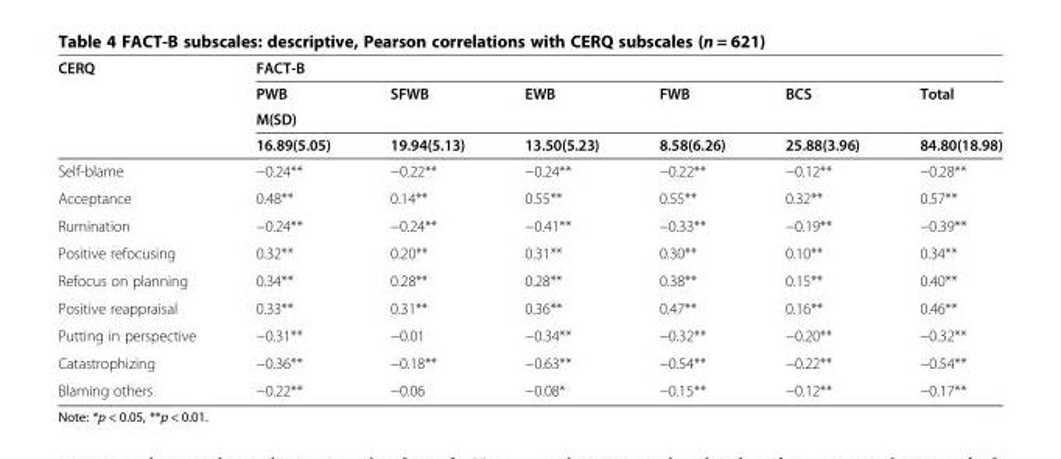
<table><thead><tr><td rowspan="4">CERQ</td><td colspan="6">FACT-B</td></tr><tr><td>PWB</td><td>SFWB</td><td>EWB</td><td>FWB</td><td>BCS</td><td>Total</td></tr><tr><td colspan="6">M(SD)</td></tr><tr><td>16.89(5.05)</td><td>19.94(5.13)</td><td>13.50(5.23)</td><td>8.58(6.26)</td><td>25.88(3.96)</td><td>84.80(18.98)</td></tr></thead><tbody><tr><td>Self-blame</td><td>−0.24**</td><td>−0.22**</td><td>−0.24**</td><td>−0.22**</td><td>−0.12**</td><td>−0.28**</td></tr><tr><td>Acceptance</td><td>0.48**</td><td>0.14**</td><td>0.55**</td><td>0.55**</td><td>0.32**</td><td>0.57**</td></tr><tr><td>Rumination</td><td>−0.24**</td><td>−0.24**</td><td>−0.41**</td><td>−0.33**</td><td>−0.19**</td><td>−0.39**</td></tr><tr><td>Positive refocusing</td><td>0.32**</td><td>0.20**</td><td>0.31**</td><td>0.30**</td><td>0.10**</td><td>0.34**</td></tr><tr><td>Refocus on planning</td><td>0.34**</td><td>0.28**</td><td>0.28**</td><td>0.38**</td><td>0.15**</td><td>0.40**</td></tr><tr><td>Positive reappraisal</td><td>0.33**</td><td>0.31**</td><td>0.36**</td><td>0.47**</td><td>0.16**</td><td>0.46**</td></tr><tr><td>Putting in perspective</td><td>−0.31**</td><td>−0.01</td><td>−0.34**</td><td>−0.32**</td><td>−0.20**</td><td>−0.32**</td></tr><tr><td>Catastrophizing</td><td>−0.36**</td><td>−0.18**</td><td>−0.63**</td><td>−0.54**</td><td>−0.22**</td><td>−0.54**</td></tr><tr><td>Blaming others</td><td>−0.22**</td><td>−0.06</td><td>−0.08*</td><td>−0.15**</td><td>−0.12**</td><td>−0.17**</td></tr></tbody></table>